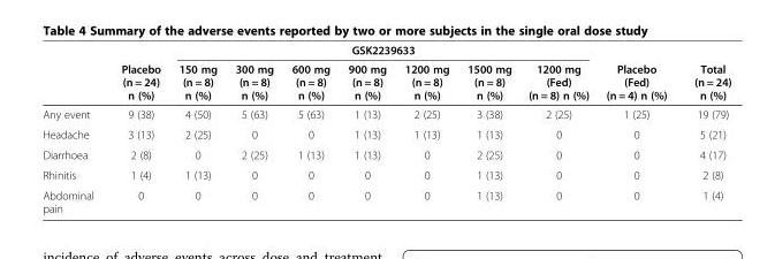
<table><thead><tr><td rowspan="2"></td><td rowspan="2">Placebo (n = 24) n (%)</td><td colspan="7">GSK2239633</td><td rowspan="2">Placebo (Fed) (n = 4) n (%)</td><td rowspan="2">Total (n = 24) n (%)</td></tr><tr><td>150 mg (n = 8) n (%)</td><td>300 mg (n = 8) n (%)</td><td>600 mg (n = 8) n (%)</td><td>900 mg (n = 8) n (%)</td><td>1200 mg (n = 8) n (%)</td><td>1500 mg (n = 8) n (%)</td><td>1200 mg (Fed) (n = 8) n (%)</td></tr></thead><tbody><tr><td>Any event</td><td>9 (38)</td><td>4 (50)</td><td>5 (63)</td><td>5 (63)</td><td>1 (13)</td><td>2 (25)</td><td>3 (38)</td><td>2 (25)</td><td>1 (25)</td><td>19 (79)</td></tr><tr><td>Headache</td><td>3 (13)</td><td>2 (25)</td><td>0</td><td>0</td><td>1 (13)</td><td>1 (13)</td><td>1 (13)</td><td>0</td><td>0</td><td>5 (21)</td></tr><tr><td>Diarrhoea</td><td>2 (8)</td><td>0</td><td>2 (25)</td><td>1 (13)</td><td>1 (13)</td><td>0</td><td>2 (25)</td><td>0</td><td>0</td><td>4 (17)</td></tr><tr><td>Rhinitis</td><td>1 (4)</td><td>1 (13)</td><td>0</td><td>0</td><td>0</td><td>0</td><td>1 (13)</td><td>0</td><td>0</td><td>2 (8)</td></tr><tr><td>Abdominal pain</td><td>0</td><td>0</td><td>0</td><td>0</td><td>0</td><td>0</td><td>1 (13)</td><td>0</td><td>0</td><td>1 (4)</td></tr></tbody></table>